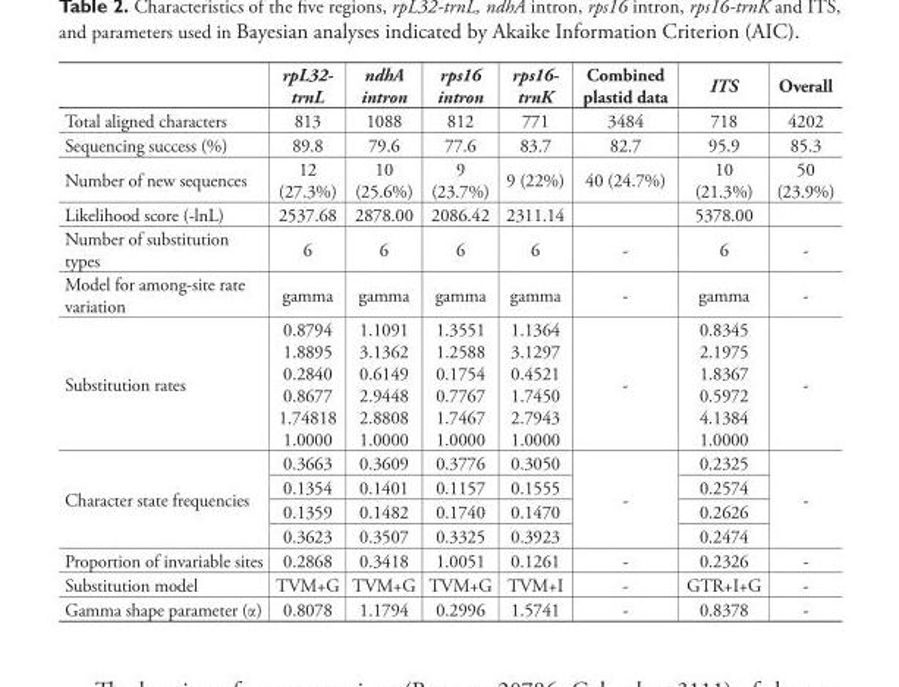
<table><thead><tr><td></td><td>rpL32- trnL</td><td>ndhA intron</td><td>rps16 intron</td><td>rps16- trnK</td><td>Combined plastid data</td><td>ITS</td><td>Overall</td></tr></thead><tbody><tr><td>Total aligned characters</td><td>813</td><td>1088</td><td>812</td><td>771</td><td>3484</td><td>718</td><td>4202</td></tr><tr><td>Sequencing success (%)</td><td>89.8</td><td>79.6</td><td>77.6</td><td>83.7</td><td>82.7</td><td>95.9</td><td>85.3</td></tr><tr><td>Number of new sequences</td><td>12 (27.3%)</td><td>10 (25.6%)</td><td>9 (23.7%)</td><td>9 (22%)</td><td>40 (24.7%)</td><td>10 (21.3%)</td><td>50 (23.9%)</td></tr><tr><td>Likelihood score (-lnL)</td><td>2537.68</td><td>2878.00</td><td>2086.42</td><td>2311.14</td><td></td><td>5378.00</td><td></td></tr><tr><td>Number of substitution types</td><td>6</td><td>6</td><td>6</td><td>6</td><td>-</td><td>6</td><td>-</td></tr><tr><td>Model for among-site rate variation</td><td>gamma</td><td>gamma</td><td>gamma</td><td>gamma</td><td>-</td><td>gamma</td><td>-</td></tr><tr><td>Substitution rates</td><td>0.8794 1.8895 0.2840 0.8677 1.74818 1.0000</td><td>1.1091 3.1362 0.6149 2.9448 2.8808 1.0000</td><td>1.3551 1.2588 0.1754 0.7767 1.7467 1.0000</td><td>1.1364 3.1297 0.4521 1.7450 2.7943 1.0000</td><td>-</td><td>0.8345 2.1975 1.8367 0.5972 4.1384 1.0000</td><td>-</td></tr><tr><td rowspan="4">Character state frequencies</td><td>0.3663</td><td>0.3609</td><td>0.3776</td><td>0.3050</td><td rowspan="4">-</td><td>0.2325</td><td rowspan="4">-</td></tr><tr><td>0.1354</td><td>0.1401</td><td>0.1157</td><td>0.1555</td><td>0.2574</td></tr><tr><td>0.1359</td><td>0.1482</td><td>0.1740</td><td>0.1470</td><td>0.2626</td></tr><tr><td>0.3623</td><td>0.3507</td><td>0.3325</td><td>0.3923</td><td>0.2474</td></tr><tr><td>Proportion of invariable sites</td><td>0.2868</td><td>0.3418</td><td>1.0051</td><td>0.1261</td><td>-</td><td>0.2326</td><td>-</td></tr><tr><td>Substitution model</td><td>TVM+G</td><td>TVM+G</td><td>TVM+G</td><td>TVM+I</td><td>-</td><td>GTR+I+G</td><td>-</td></tr><tr><td>Gamma shape parameter (α)</td><td>0.8078</td><td>1.1794</td><td>0.2996</td><td>1.5741</td><td>-</td><td>0.8378</td><td>-</td></tr></tbody></table>